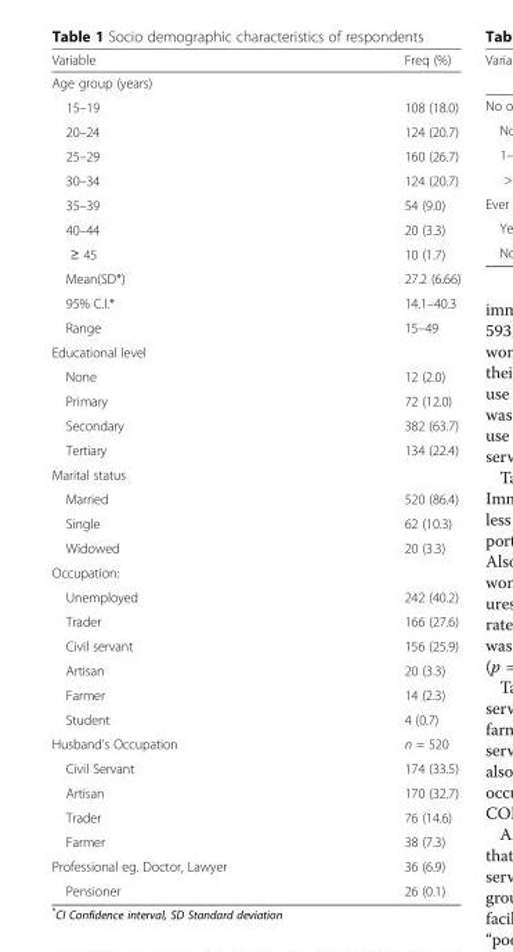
<table><thead><tr><td>Variable</td><td>Freq (%)</td></tr></thead><tbody><tr><td colspan="2">Age group (years)</td></tr><tr><td>15–19</td><td>108 (18.0)</td></tr><tr><td>20–24</td><td>124 (20.7)</td></tr><tr><td>25–29</td><td>160 (26.7)</td></tr><tr><td>30–34</td><td>124 (20.7)</td></tr><tr><td>35–39</td><td>54 (9.0)</td></tr><tr><td>40–44</td><td>20 (3.3)</td></tr><tr><td>≥ 45</td><td>10 (1.7)</td></tr><tr><td>Mean(SD*)</td><td>27.2 (6.66)</td></tr><tr><td>95% C.I.*</td><td>14.1–40.3</td></tr><tr><td>Range</td><td>15–49</td></tr><tr><td colspan="2">Educational level</td></tr><tr><td>None</td><td>12 (2.0)</td></tr><tr><td>Primary</td><td>72 (12.0)</td></tr><tr><td>Secondary</td><td>382 (63.7)</td></tr><tr><td>Tertiary</td><td>134 (22.4)</td></tr><tr><td colspan="2">Marital status</td></tr><tr><td>Married</td><td>520 (86.4)</td></tr><tr><td>Single</td><td>62 (10.3)</td></tr><tr><td>Widowed</td><td>20 (3.3)</td></tr><tr><td colspan="2">Occupation:</td></tr><tr><td>Unemployed</td><td>242 (40.2)</td></tr><tr><td>Trader</td><td>166 (27.6)</td></tr><tr><td>Civil servant</td><td>156 (25.9)</td></tr><tr><td>Artisan</td><td>20 (3.3)</td></tr><tr><td>Farmer</td><td>14 (2.3)</td></tr><tr><td>Student</td><td>4 (0.7)</td></tr><tr><td>Husband’s Occupation</td><td>n = 520</td></tr><tr><td>Civil Servant</td><td>174 (33.5)</td></tr><tr><td>Artisan</td><td>170 (32.7)</td></tr><tr><td>Trader</td><td>76 (14.6)</td></tr><tr><td>Farmer</td><td>38 (7.3)</td></tr><tr><td>Professional eg. Doctor, Lawyer</td><td>36 (6.9)</td></tr><tr><td>Pensioner</td><td>26 (0.1)</td></tr></tbody></table>